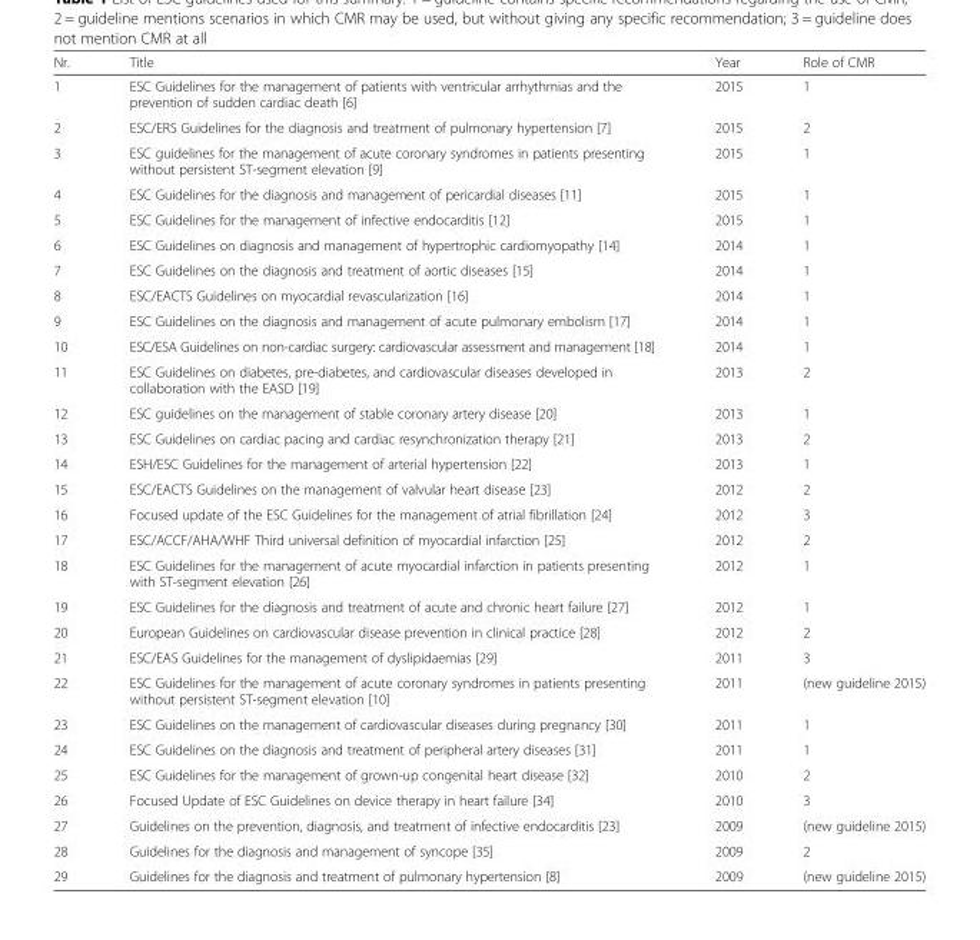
<table><thead><tr><td>Nr.</td><td>Title</td><td>Year</td><td>Role of CMR</td></tr></thead><tbody><tr><td>1</td><td>ESC Guidelines for the management of patients with ventricular arrhythmias and the prevention of sudden cardiac death [6]</td><td>2015</td><td>1</td></tr><tr><td>2</td><td>ESC/ERS Guidelines for the diagnosis and treatment of pulmonary hypertension [7]</td><td>2015</td><td>2</td></tr><tr><td>3</td><td>ESC guidelines for the management of acute coronary syndromes in patients presenting without persistent ST-segment elevation [9]</td><td>2015</td><td>1</td></tr><tr><td>4</td><td>ESC Guidelines for the diagnosis and management of pericardial diseases [11]</td><td>2015</td><td>1</td></tr><tr><td>5</td><td>ESC Guidelines for the management of infective endocarditis [12]</td><td>2015</td><td>1</td></tr><tr><td>6</td><td>ESC Guidelines on diagnosis and management of hypertrophic cardiomyopathy [14]</td><td>2014</td><td>1</td></tr><tr><td>7</td><td>ESC Guidelines on the diagnosis and treatment of aortic diseases [15]</td><td>2014</td><td>1</td></tr><tr><td>8</td><td>ESC/EACTS Guidelines on myocardial revascularization [16]</td><td>2014</td><td>1</td></tr><tr><td>9</td><td>ESC Guidelines on the diagnosis and management of acute pulmonary embolism [17]</td><td>2014</td><td>1</td></tr><tr><td>10</td><td>ESC/ESA Guidelines on non-cardiac surgery: cardiovascular assessment and management [18]</td><td>2014</td><td>1</td></tr><tr><td>11</td><td>ESC Guidelines on diabetes, pre-diabetes, and cardiovascular diseases developed in collaboration with the EASD [19]</td><td>2013</td><td>2</td></tr><tr><td>12</td><td>ESC guidelines on the management of stable coronary artery disease [20]</td><td>2013</td><td>1</td></tr><tr><td>13</td><td>ESC Guidelines on cardiac pacing and cardiac resynchronization therapy [21]</td><td>2013</td><td>2</td></tr><tr><td>14</td><td>ESH/ESC Guidelines for the management of arterial hypertension [22]</td><td>2013</td><td>1</td></tr><tr><td>15</td><td>ESC/EACTS Guidelines on the management of valvular heart disease [23]</td><td>2012</td><td>2</td></tr><tr><td>16</td><td>Focused update of the ESC Guidelines for the management of atrial fibrillation [24]</td><td>2012</td><td>3</td></tr><tr><td>17</td><td>ESC/ACCF/AHA/WHF Third universal definition of myocardial infarction [25]</td><td>2012</td><td>2</td></tr><tr><td>18</td><td>ESC Guidelines for the management of acute myocardial infarction in patients presenting with ST-segment elevation [26]</td><td>2012</td><td>1</td></tr><tr><td>19</td><td>ESC Guidelines for the diagnosis and treatment of acute and chronic heart failure [27]</td><td>2012</td><td>1</td></tr><tr><td>20</td><td>European Guidelines on cardiovascular disease prevention in clinical practice [28]</td><td>2012</td><td>2</td></tr><tr><td>21</td><td>ESC/EAS Guidelines for the management of dyslipidaemias [29]</td><td>2011</td><td>3</td></tr><tr><td>22</td><td>ESC Guidelines for the management of acute coronary syndromes in patients presenting without persistent ST-segment elevation [10]</td><td>2011</td><td>(new guideline 2015)</td></tr><tr><td>23</td><td>ESC Guidelines on the management of cardiovascular diseases during pregnancy [30]</td><td>2011</td><td>1</td></tr><tr><td>24</td><td>ESC Guidelines on the diagnosis and treatment of peripheral artery diseases [31]</td><td>2011</td><td>1</td></tr><tr><td>25</td><td>ESC Guidelines for the management of grown-up congenital heart disease [32]</td><td>2010</td><td>2</td></tr><tr><td>26</td><td>Focused Update of ESC Guidelines on device therapy in heart failure [34]</td><td>2010</td><td>3</td></tr><tr><td>27</td><td>Guidelines on the prevention, diagnosis, and treatment of infective endocarditis [23]</td><td>2009</td><td>(new guideline 2015)</td></tr><tr><td>28</td><td>Guidelines for the diagnosis and management of syncope [35]</td><td>2009</td><td>2</td></tr><tr><td>29</td><td>Guidelines for the diagnosis and treatment of pulmonary hypertension [8]</td><td>2009</td><td>(new guideline 2015)</td></tr></tbody></table>